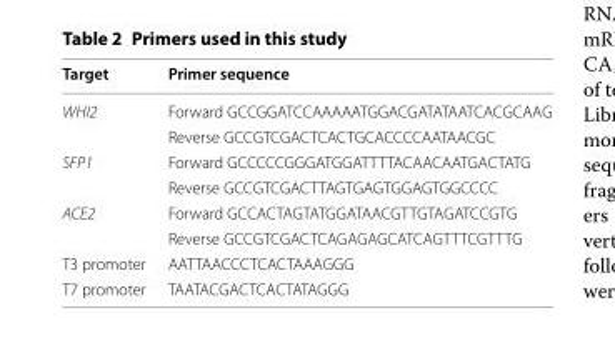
<table><thead><tr><td>Target</td><td>Primer sequence</td></tr></thead><tbody><tr><td rowspan="2">WHI2</td><td>Forward GCCGGATCCAAAAATGGACGATATAATCACGCAAG</td></tr><tr><td>Reverse GCCGTCGACTCACTGCACCCCAATAACGC</td></tr><tr><td rowspan="2">SFP1</td><td>Forward GCCCCCGGGATGGATTTTACAACAATGACTATG</td></tr><tr><td>Reverse GCCGTCGACTTAGTGAGTGGAGTGGCCCC</td></tr><tr><td rowspan="2">ACE2</td><td>Forward GCCACTAGTATGGATAACGTTGTAGATCCGTG</td></tr><tr><td>Reverse GCCGTCGACTCAGAGAGCATCAGTTTCGTTTG</td></tr><tr><td>T3 promoter</td><td>AATTAACCCTCACTAAAGGG</td></tr><tr><td>T7 promoter</td><td>TAATACGACTCACTATAGGG</td></tr></tbody></table>